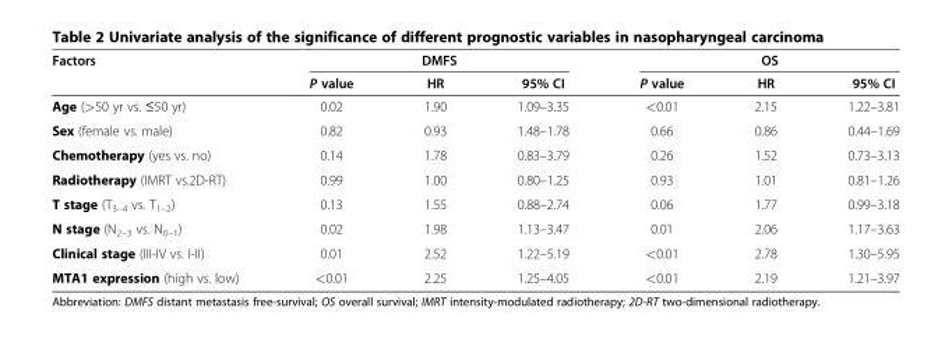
<table><thead><tr><td rowspan="2">Factors</td><td colspan="3">DMFS</td><td colspan="3">OS</td></tr><tr><td>P value</td><td>HR</td><td>95% CI</td><td>P value</td><td>HR</td><td>95% CI</td></tr></thead><tbody><tr><td>Age (&gt;50 yr vs. ≤50 yr)</td><td>0.02</td><td>1.90</td><td>1.09–3.35</td><td>&lt;0.01</td><td>2.15</td><td>1.22–3.81</td></tr><tr><td>Sex (female vs. male)</td><td>0.82</td><td>0.93</td><td>1.48–1.78</td><td>0.66</td><td>0.86</td><td>0.44–1.69</td></tr><tr><td>Chemotherapy (yes vs. no)</td><td>0.14</td><td>1.78</td><td>0.83–3.79</td><td>0.26</td><td>1.52</td><td>0.73–3.13</td></tr><tr><td>Radiotherapy (IMRT vs.2D-RT)</td><td>0.99</td><td>1.00</td><td>0.80–1.25</td><td>0.93</td><td>1.01</td><td>0.81–1.26</td></tr><tr><td>T stage (T<sub>3–4</sub> vs. T<sub>1–2</sub>)</td><td>0.13</td><td>1.55</td><td>0.88–2.74</td><td>0.06</td><td>1.77</td><td>0.99–3.18</td></tr><tr><td>N stage (N<sub>2–3</sub> vs. N<sub>0–1</sub>)</td><td>0.02</td><td>1.98</td><td>1.13–3.47</td><td>0.01</td><td>2.06</td><td>1.17–3.63</td></tr><tr><td>Clinical stage (III-IV vs. I-II)</td><td>0.01</td><td>2.52</td><td>1.22–5.19</td><td>&lt;0.01</td><td>2.78</td><td>1.30–5.95</td></tr><tr><td>MTA1 expression (high vs. low)</td><td>&lt;0.01</td><td>2.25</td><td>1.25–4.05</td><td>&lt;0.01</td><td>2.19</td><td>1.21–3.97</td></tr></tbody></table>